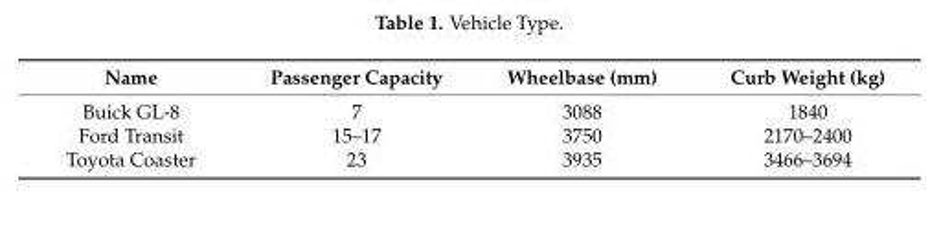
<table><thead><tr><td>Name</td><td>Passenger Capacity</td><td>Wheelbase (mm)</td><td>Curb Weight (kg)</td></tr></thead><tbody><tr><td>Buick GL-8</td><td>7</td><td>3088</td><td>1840</td></tr><tr><td>Ford Transit</td><td>15–17</td><td>3750</td><td>2170–2400</td></tr><tr><td>Toyota Coaster</td><td>23</td><td>3935</td><td>3466–3694</td></tr></tbody></table>